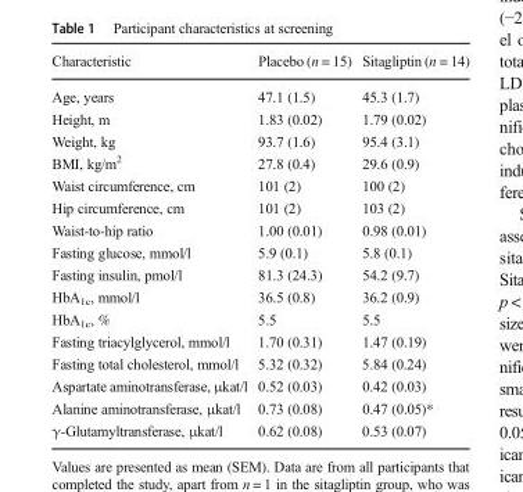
<table><thead><tr><td>Characteristic</td><td>Placebo (n = 15)</td><td>Sitagliptin (n = 14)</td></tr></thead><tbody><tr><td>Age, years</td><td>47.1 (1.5)</td><td>45.3 (1.7)</td></tr><tr><td>Height, m</td><td>1.83 (0.02)</td><td>1.79 (0.02)</td></tr><tr><td>Weight, kg</td><td>93.7 (1.6)</td><td>95.4 (3.1)</td></tr><tr><td>BMI, kg/m<sup>2</sup></td><td>27.8 (0.4)</td><td>29.6 (0.9)</td></tr><tr><td>Waist circumference, cm</td><td>101 (2)</td><td>100 (2)</td></tr><tr><td>Hip circumference, cm</td><td>101 (2)</td><td>103 (2)</td></tr><tr><td>Waist-to-hip ratio</td><td>1.00 (0.01)</td><td>0.98 (0.01)</td></tr><tr><td>Fasting glucose, mmol/l</td><td>5.9 (0.1)</td><td>5.8 (0.1)</td></tr><tr><td>Fasting insulin, pmol/l</td><td>81.3 (24.3)</td><td>54.2 (9.7)</td></tr><tr><td>HbA<sub>1c</sub>, mmol/l</td><td>36.5 (0.8)</td><td>36.2 (0.9)</td></tr><tr><td>HbA<sub>1c</sub>, %</td><td>5.5</td><td>5.5</td></tr><tr><td>Fasting triacylglycerol, mmol/l</td><td>1.70 (0.31)</td><td>1.47 (0.19)</td></tr><tr><td>Fasting total cholesterol, mmol/l</td><td>5.32 (0.32)</td><td>5.84 (0.24)</td></tr><tr><td>Aspartate aminotransferase, μkat/l</td><td>0.52 (0.03)</td><td>0.42 (0.03)</td></tr><tr><td>Alanine aminotransferase, μkat/l</td><td>0.73 (0.08)</td><td>0.47 (0.05)*</td></tr><tr><td>γ-Glutamyltransferase, μkat/l</td><td>0.62 (0.08)</td><td>0.53 (0.07)</td></tr></tbody></table>